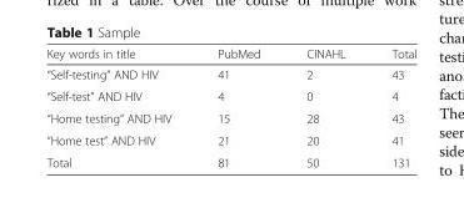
<table><thead><tr><td>Key words in title</td><td>PubMed</td><td>CINAHL</td><td>Total</td></tr></thead><tbody><tr><td>“Self-testing” AND HIV</td><td>41</td><td>2</td><td>43</td></tr><tr><td>“Self-test” AND HIV</td><td>4</td><td>0</td><td>4</td></tr><tr><td>“Home testing” AND HIV</td><td>15</td><td>28</td><td>43</td></tr><tr><td>“Home test” AND HIV</td><td>21</td><td>20</td><td>41</td></tr><tr><td>Total</td><td>81</td><td>50</td><td>131</td></tr></tbody></table>